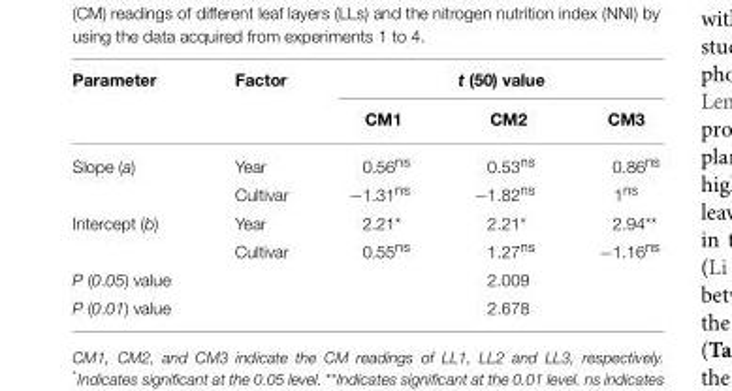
<table><thead><tr><td rowspan="2">Parameter</td><td rowspan="2">Factor</td><td colspan="3">t (50) value</td></tr><tr><td>CM1</td><td>CM2</td><td>CM3</td></tr></thead><tbody><tr><td rowspan="2">Slope (a)</td><td>Year</td><td>0.56<sup>ns</sup></td><td>0.53<sup>ns</sup></td><td>0.86<sup>ns</sup></td></tr><tr><td>Cultivar</td><td>−1.31<sup>ns</sup></td><td>−1.82<sup>ns</sup></td><td>1<sup>ns</sup></td></tr><tr><td rowspan="2">Intercept (b)</td><td>Year</td><td>2.21*</td><td>2.21*</td><td>2.94**</td></tr><tr><td>Cultivar</td><td>0.55<sup>ns</sup></td><td>1.27<sup>ns</sup></td><td>−1.16<sup>ns</sup></td></tr><tr><td>P (0.05) value</td><td></td><td></td><td>2.009</td><td></td></tr><tr><td>P (0.01) value</td><td></td><td></td><td>2.678</td><td></td></tr></tbody></table>